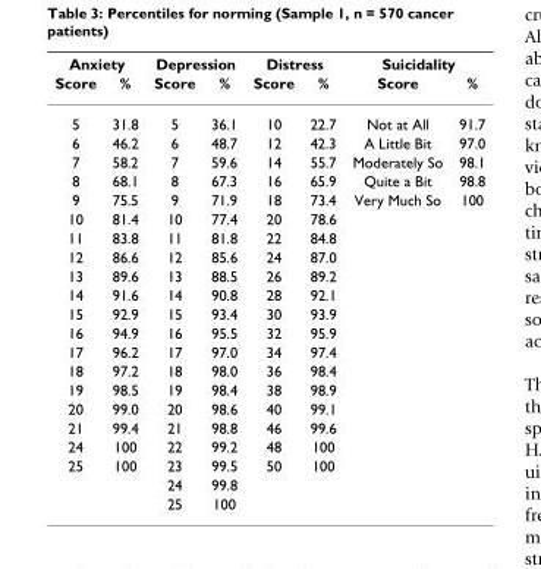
<table><thead><tr><td colspan="2">Anxiety</td><td colspan="2">Depression</td><td colspan="2">Distress</td><td colspan="2">Suicidality</td></tr><tr><td>Score</td><td>%</td><td>Score</td><td>%</td><td>Score</td><td>%</td><td>Score</td><td>%</td></tr></thead><tbody><tr><td>5</td><td>31.8</td><td>5</td><td>36.1</td><td>10</td><td>22.7</td><td>Not at All</td><td>91.7</td></tr><tr><td>6</td><td>46.2</td><td>6</td><td>48.7</td><td>12</td><td>42.3</td><td>A Little Bit</td><td>97.0</td></tr><tr><td>7</td><td>58.2</td><td>7</td><td>59.6</td><td>14</td><td>55.7</td><td>Moderately So</td><td>98.1</td></tr><tr><td>8</td><td>68.1</td><td>8</td><td>67.3</td><td>16</td><td>65.9</td><td>Quite a Bit</td><td>98.8</td></tr><tr><td>9</td><td>75.5</td><td>9</td><td>71.9</td><td>18</td><td>73.4</td><td>Very Much So</td><td>100</td></tr><tr><td>10</td><td>81.4</td><td>10</td><td>77.4</td><td>20</td><td>78.6</td><td></td><td></td></tr><tr><td>11</td><td>83.8</td><td>11</td><td>81.8</td><td>22</td><td>84.8</td><td></td><td></td></tr><tr><td>12</td><td>86.6</td><td>12</td><td>85.6</td><td>24</td><td>87.0</td><td></td><td></td></tr><tr><td>13</td><td>89.6</td><td>13</td><td>88.5</td><td>26</td><td>89.2</td><td></td><td></td></tr><tr><td>14</td><td>91.6</td><td>14</td><td>90.8</td><td>28</td><td>92.1</td><td></td><td></td></tr><tr><td>15</td><td>92.9</td><td>15</td><td>93.4</td><td>30</td><td>93.9</td><td></td><td></td></tr><tr><td>16</td><td>94.9</td><td>16</td><td>95.5</td><td>32</td><td>95.9</td><td></td><td></td></tr><tr><td>17</td><td>96.2</td><td>17</td><td>97.0</td><td>34</td><td>97.4</td><td></td><td></td></tr><tr><td>18</td><td>97.2</td><td>18</td><td>98.0</td><td>36</td><td>98.4</td><td></td><td></td></tr><tr><td>19</td><td>98.5</td><td>19</td><td>98.4</td><td>38</td><td>98.9</td><td></td><td></td></tr><tr><td>20</td><td>99.0</td><td>20</td><td>98.6</td><td>40</td><td>99.1</td><td></td><td></td></tr><tr><td>21</td><td>99.4</td><td>21</td><td>98.8</td><td>46</td><td>99.6</td><td></td><td></td></tr><tr><td>24</td><td>100</td><td>22</td><td>99.2</td><td>48</td><td>100</td><td></td><td></td></tr><tr><td rowspan="3">25</td><td>100</td><td>23</td><td>99.5</td><td>50</td><td>100</td><td></td><td></td></tr><tr><td></td><td>24</td><td>99.8</td><td></td><td></td><td></td><td></td></tr><tr><td></td><td>25</td><td>100</td><td></td><td></td><td></td><td></td></tr></tbody></table>